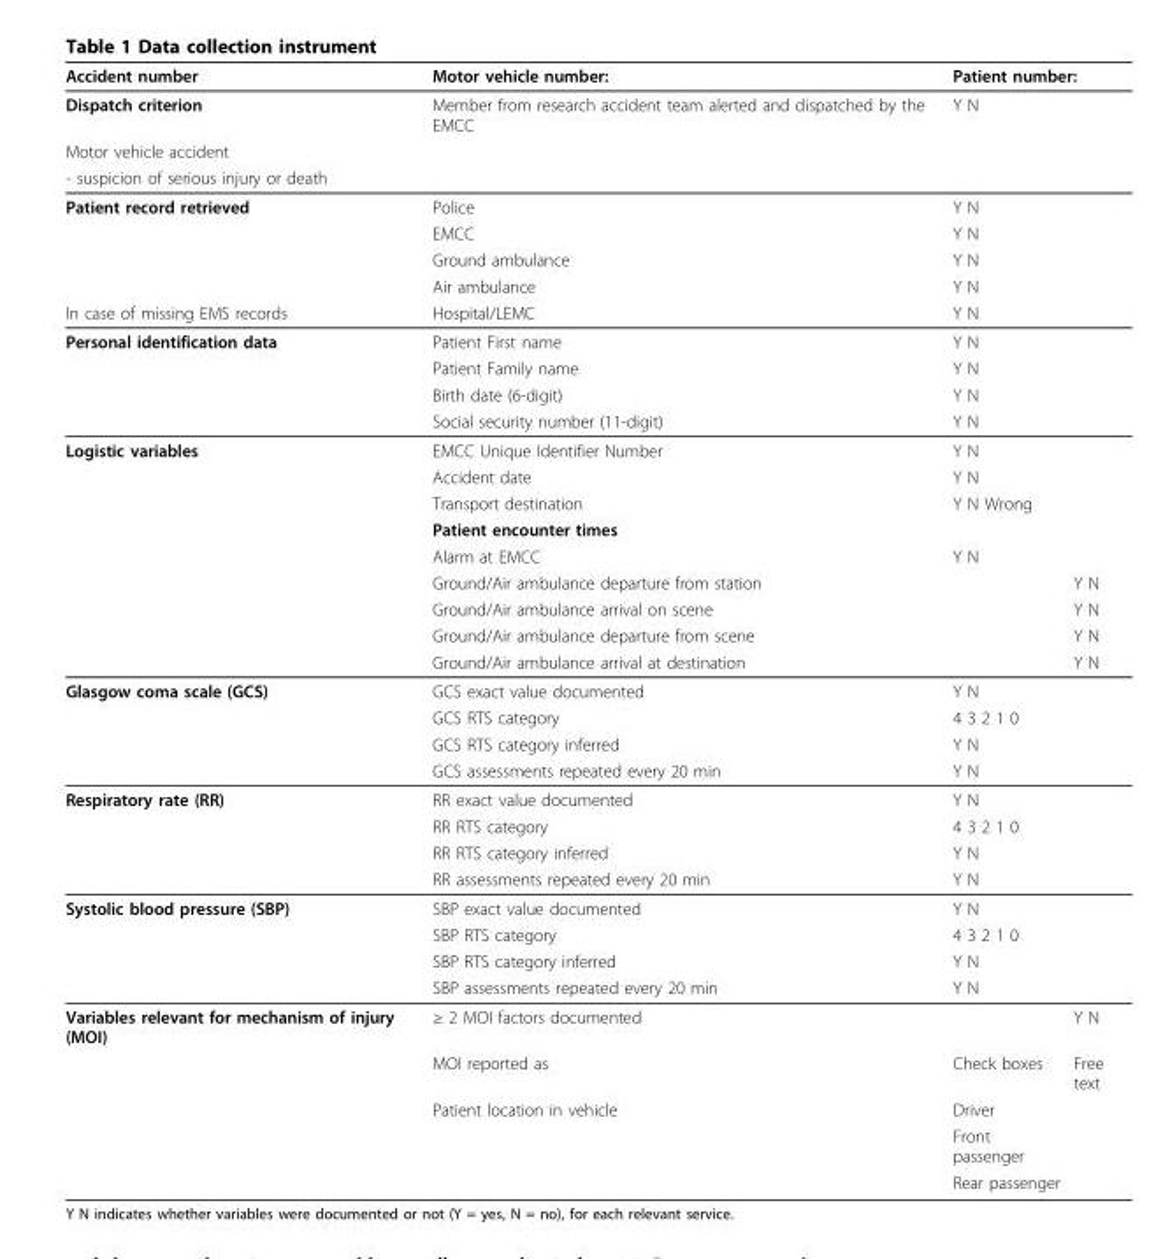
<table><thead><tr><td rowspan="2">Accident number Dispatch criterion</td><td rowspan="2">Motor vehicle number: Member from research accident team alerted and dispatched by the EMCC</td><td colspan="2">Patient number:</td></tr><tr><td>Y N</td><td></td></tr></thead><tbody><tr><td colspan="4">Motor vehicle accident</td></tr><tr><td colspan="4">- suspicion of serious injury or death</td></tr><tr><td rowspan="4">Patient record retrieved</td><td>Police</td><td>Y N</td><td></td></tr><tr><td>EMCC</td><td>Y N</td><td></td></tr><tr><td>Ground ambulance</td><td>Y N</td><td></td></tr><tr><td>Air ambulance</td><td>Y N</td><td></td></tr><tr><td>In case of missing EMS records</td><td>Hospital/LEMC</td><td>Y N</td><td></td></tr><tr><td rowspan="4">Personal identification data</td><td>Patient First name</td><td>Y N</td><td></td></tr><tr><td>Patient Family name</td><td>Y N</td><td></td></tr><tr><td>Birth date (6-digit)</td><td>Y N</td><td></td></tr><tr><td>Social security number (11-digit)</td><td>Y N</td><td></td></tr><tr><td rowspan="9">Logistic variables</td><td>EMCC Unique Identifier Number</td><td>Y N</td><td></td></tr><tr><td>Accident date</td><td>Y N</td><td></td></tr><tr><td>Transport destination</td><td>Y N Wrong</td><td></td></tr><tr><td>Patient encounter times</td><td></td><td></td></tr><tr><td>Alarm at EMCC</td><td>Y N</td><td></td></tr><tr><td colspan="2">Ground/Air ambulance departure from station</td><td>Y N</td></tr><tr><td colspan="2">Ground/Air ambulance arrival on scene</td><td>Y N</td></tr><tr><td colspan="2">Ground/Air ambulance departure from scene</td><td>Y N</td></tr><tr><td colspan="2">Ground/Air ambulance arrival at destination</td><td>Y N</td></tr><tr><td rowspan="4">Glasgow coma scale (GCS)</td><td>GCS exact value documented</td><td>Y N</td><td></td></tr><tr><td>GCS RTS category</td><td>4 3 2 1 0</td><td></td></tr><tr><td>GCS RTS category inferred</td><td>Y N</td><td></td></tr><tr><td>GCS assessments repeated every 20 min</td><td>Y N</td><td></td></tr><tr><td rowspan="4">Respiratory rate (RR)</td><td>RR exact value documented</td><td>Y N</td><td></td></tr><tr><td>RR RTS category</td><td>4 3 2 1 0</td><td></td></tr><tr><td>RR RTS category inferred</td><td>Y N</td><td></td></tr><tr><td>RR assessments repeated every 20 min</td><td>Y N</td><td></td></tr><tr><td rowspan="4">Systolic blood pressure (SBP)</td><td>SBP exact value documented</td><td>Y N</td><td></td></tr><tr><td>SBP RTS category</td><td>4 3 2 1 0</td><td></td></tr><tr><td>SBP RTS category inferred</td><td>Y N</td><td></td></tr><tr><td>SBP assessments repeated every 20 min</td><td>Y N</td><td></td></tr><tr><td rowspan="5">Variables relevant for mechanism of injury (MOI)</td><td>≥ 2 MOI factors documented</td><td></td><td>Y N</td></tr><tr><td>MOI reported as</td><td>Check boxes</td><td>Free text</td></tr><tr><td>Patient location in vehicle</td><td>Driver</td><td></td></tr><tr><td></td><td>Front passenger</td><td></td></tr><tr><td></td><td>Rear passenger</td><td></td></tr></tbody></table>